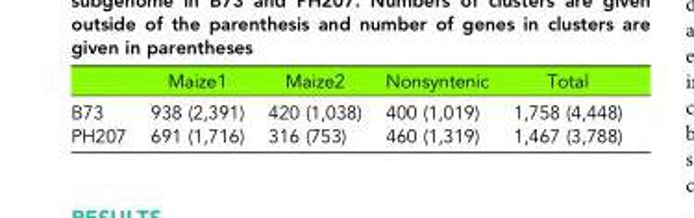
<table><thead><tr><td></td><td>Maize1</td><td>Maize2</td><td>Nonsyntenic</td><td>Total</td></tr></thead><tbody><tr><td>B73</td><td>938 (2,391)</td><td>420 (1,038)</td><td>400 (1,019)</td><td>1,758 (4,448)</td></tr><tr><td>PH207</td><td>691 (1,716)</td><td>316 (753)</td><td>460 (1,319)</td><td>1,467 (3,788)</td></tr></tbody></table>